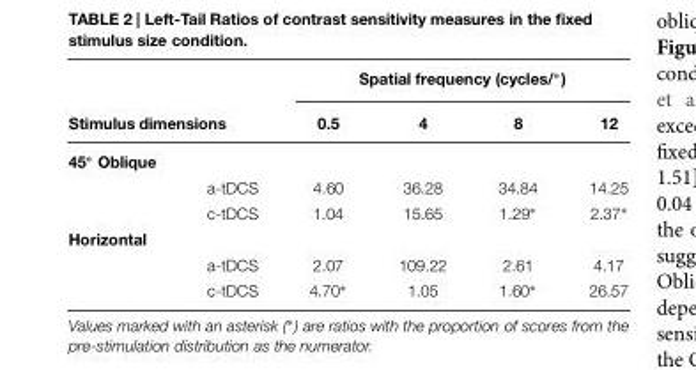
<table><thead><tr><td></td><td></td><td colspan="4">Spatial frequency (cycles/◦)</td></tr><tr><td colspan="2">Stimulus dimensions</td><td>0.5</td><td>4</td><td>8</td><td>12</td></tr></thead><tbody><tr><td colspan="6">45◦ Oblique</td></tr><tr><td></td><td>a-tDCS</td><td>4.60</td><td>36.28</td><td>34.84</td><td>14.25</td></tr><tr><td></td><td>c-tDCS</td><td>1.04</td><td>15.65</td><td>1.29∗</td><td>2.37∗</td></tr><tr><td colspan="6">Horizontal</td></tr><tr><td></td><td>a-tDCS</td><td>2.07</td><td>109.22</td><td>2.61</td><td>4.17</td></tr><tr><td></td><td>c-tDCS</td><td>4.70∗</td><td>1.05</td><td>1.60∗</td><td>26.57</td></tr></tbody></table>